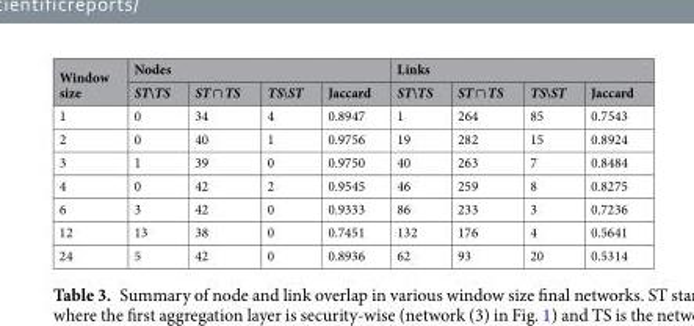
<table><thead><tr><td rowspan="2">Window size</td><td colspan="4">Nodes</td><td colspan="4">Links</td></tr><tr><td>ST\TS</td><td>ST ∩ TS</td><td>TS\ST</td><td>Jaccard</td><td>ST\TS</td><td>ST ∩ TS</td><td>TS\ST</td><td>Jaccard</td></tr></thead><tbody><tr><td>1</td><td>0</td><td>34</td><td>4</td><td>0.8947</td><td>1</td><td>264</td><td>85</td><td>0.7543</td></tr><tr><td>2</td><td>0</td><td>40</td><td>1</td><td>0.9756</td><td>19</td><td>282</td><td>15</td><td>0.8924</td></tr><tr><td>3</td><td>1</td><td>39</td><td>0</td><td>0.9750</td><td>40</td><td>263</td><td>7</td><td>0.8484</td></tr><tr><td>4</td><td>0</td><td>42</td><td>2</td><td>0.9545</td><td>46</td><td>259</td><td>8</td><td>0.8275</td></tr><tr><td>6</td><td>3</td><td>42</td><td>0</td><td>0.9333</td><td>86</td><td>233</td><td>3</td><td>0.7236</td></tr><tr><td>12</td><td>13</td><td>38</td><td>0</td><td>0.7451</td><td>132</td><td>176</td><td>4</td><td>0.5641</td></tr><tr><td>24</td><td>5</td><td>42</td><td>0</td><td>0.8936</td><td>62</td><td>93</td><td>20</td><td>0.5314</td></tr></tbody></table>